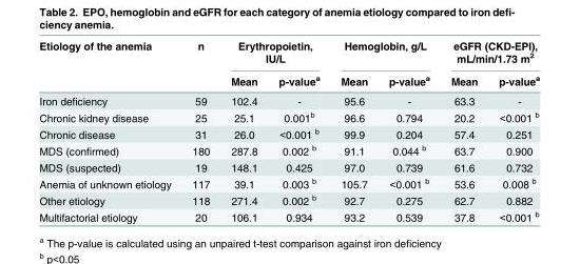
<table><thead><tr><td rowspan="2">Etiology of the anemia</td><td rowspan="2">n</td><td colspan="2">Erythropoietin, IU/L</td><td colspan="2">Hemoglobin, g/L</td><td colspan="2">eGFR (CKD-EPI), mL/min/1.73 m<sup>2</sup></td></tr><tr><td>Mean</td><td>p-value<sup>a</sup></td><td>Mean</td><td>p-value<sup>a</sup></td><td>Mean</td><td>p-value<sup>a</sup></td></tr></thead><tbody><tr><td>Iron deficiency</td><td>59</td><td>102.4</td><td>-</td><td>95.6</td><td>-</td><td>63.3</td><td>-</td></tr><tr><td>Chronic kidney disease</td><td>25</td><td>25.1</td><td>0.001<sup>b</sup></td><td>96.6</td><td>0.794</td><td>20.2</td><td>&lt;0.001 <sup>b</sup></td></tr><tr><td>Chronic disease</td><td>31</td><td>26.0</td><td>&lt;0.001 <sup>b</sup></td><td>99.9</td><td>0.204</td><td>57.4</td><td>0.251</td></tr><tr><td>MDS (confirmed)</td><td>180</td><td>287.8</td><td>0.002 <sup>b</sup></td><td>91.1</td><td>0.044 <sup>b</sup></td><td>63.7</td><td>0.900</td></tr><tr><td>MDS (suspected)</td><td>19</td><td>148.1</td><td>0.425</td><td>97.0</td><td>0.739</td><td>61.6</td><td>0.732</td></tr><tr><td>Anemia of unknown etiology</td><td>117</td><td>39.1</td><td>0.003 <sup>b</sup></td><td>105.7</td><td>&lt;0.001 <sup>b</sup></td><td>53.6</td><td>0.008 <sup>b</sup></td></tr><tr><td>Other etiology</td><td>118</td><td>271.4</td><td>0.002 <sup>b</sup></td><td>92.7</td><td>0.275</td><td>62.7</td><td>0.882</td></tr><tr><td>Multifactorial etiology</td><td>20</td><td>106.1</td><td>0.934</td><td>93.2</td><td>0.539</td><td>37.8</td><td>&lt;0.001 <sup>b</sup></td></tr></tbody></table>